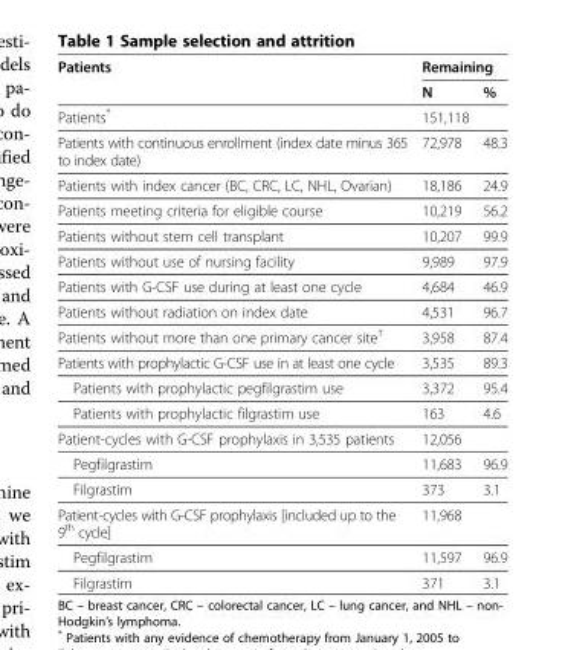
<table><thead><tr><td rowspan="2">Patients</td><td colspan="2">Remaining</td></tr><tr><td>N</td><td>%</td></tr></thead><tbody><tr><td>Patients*</td><td>151,118</td><td></td></tr><tr><td>Patients with continuous enrollment (index date minus 365 to index date)</td><td>72,978</td><td>48.3</td></tr><tr><td>Patients with index cancer (BC, CRC, LC, NHL, Ovarian)</td><td>18,186</td><td>24.9</td></tr><tr><td>Patients meeting criteria for eligible course</td><td>10,219</td><td>56.2</td></tr><tr><td>Patients without stem cell transplant</td><td>10,207</td><td>99.9</td></tr><tr><td>Patients without use of nursing facility</td><td>9,989</td><td>97.9</td></tr><tr><td>Patients with G-CSF use during at least one cycle</td><td>4,684</td><td>46.9</td></tr><tr><td>Patients without radiation on index date</td><td>4,531</td><td>96.7</td></tr><tr><td>Patients without more than one primary cancer site<sup>†</sup></td><td>3,958</td><td>87.4</td></tr><tr><td>Patients with prophylactic G-CSF use in at least one cycle</td><td>3,535</td><td>89.3</td></tr><tr><td>Patients with prophylactic pegfilgrastim use</td><td>3,372</td><td>95.4</td></tr><tr><td>Patients with prophylactic filgrastim use</td><td>163</td><td>4.6</td></tr><tr><td>Patient-cycles with G-CSF prophylaxis in 3,535 patients</td><td>12,056</td><td></td></tr><tr><td>Pegfilgrastim</td><td>11,683</td><td>96.9</td></tr><tr><td>Filgrastim</td><td>373</td><td>3.1</td></tr><tr><td>Patient-cycles with G-CSF prophylaxis [included up to the 9<sup>th</sup> cycle]</td><td>11,968</td><td></td></tr><tr><td>Pegfilgrastim</td><td>11,597</td><td>96.9</td></tr><tr><td>Filgrastim</td><td>371</td><td>3.1</td></tr></tbody></table>